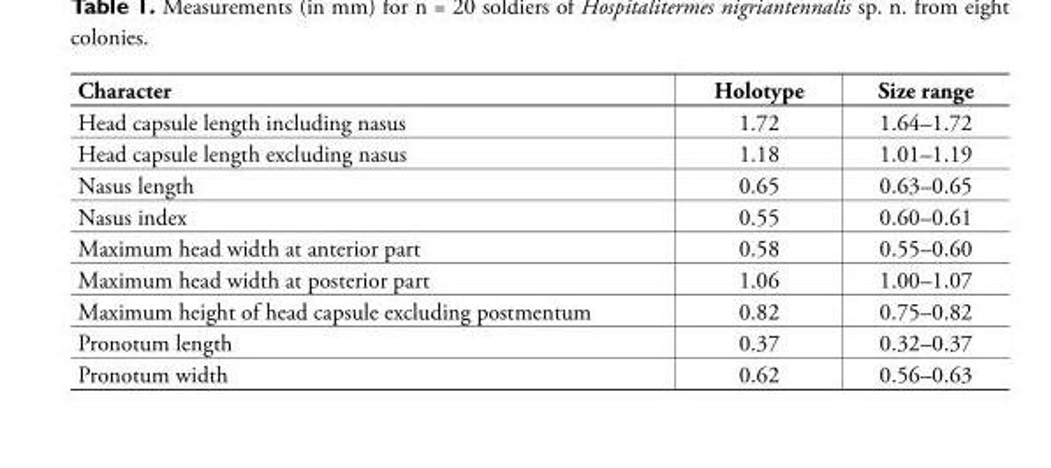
<table><thead><tr><td>Character</td><td>Holotype</td><td>Size range</td></tr></thead><tbody><tr><td>Head capsule length including nasus</td><td>1.72</td><td>1.64–1.72</td></tr><tr><td>Head capsule length excluding nasus</td><td>1.18</td><td>1.01–1.19</td></tr><tr><td>Nasus length</td><td>0.65</td><td>0.63–0.65</td></tr><tr><td>Nasus index</td><td>0.55</td><td>0.60–0.61</td></tr><tr><td>Maximum head width at anterior part</td><td>0.58</td><td>0.55–0.60</td></tr><tr><td>Maximum head width at posterior part</td><td>1.06</td><td>1.00–1.07</td></tr><tr><td>Maximum height of head capsule excluding postmentum</td><td>0.82</td><td>0.75–0.82</td></tr><tr><td>Pronotum length</td><td>0.37</td><td>0.32–0.37</td></tr><tr><td>Pronotum width</td><td>0.62</td><td>0.56–0.63</td></tr></tbody></table>